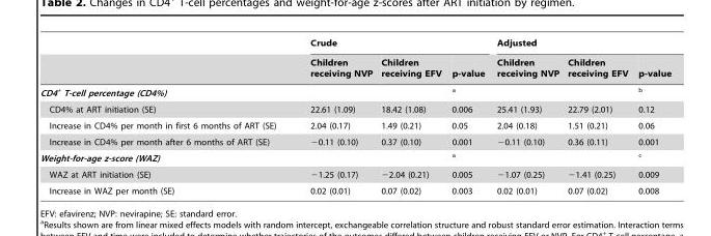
<table><thead><tr><td rowspan="2"></td><td colspan="3">Crude</td><td colspan="3">Adjusted</td></tr><tr><td>Children receiving NVP</td><td>Children receiving EFV</td><td>p-value</td><td>Children receiving NVP</td><td>Children receiving EFV</td><td>p-value</td></tr></thead><tbody><tr><td>CD4<sup>+</sup> T-cell percentage (CD4%)</td><td></td><td></td><td>a</td><td></td><td></td><td>b</td></tr><tr><td>CD4% at ART initiation (SE)</td><td>22.61 (1.09)</td><td>18.42 (1.08)</td><td>0.006</td><td>25.41 (1.93)</td><td>22.79 (2.01)</td><td>0.12</td></tr><tr><td>Increase in CD4% per month in first 6 months of ART (SE)</td><td>2.04 (0.17)</td><td>1.49 (0.21)</td><td>0.05</td><td>2.04 (0.18)</td><td>1.51 (0.21)</td><td>0.06</td></tr><tr><td>Increase in CD4% per month after 6 months of ART (SE)</td><td>−0.11 (0.10)</td><td>0.37 (0.10)</td><td>0.001</td><td>−0.11 (0.10)</td><td>0.36 (0.11)</td><td>0.001</td></tr><tr><td>Weight-for-age z-score (WAZ)</td><td></td><td></td><td>a</td><td></td><td></td><td>c</td></tr><tr><td>WAZ at ART initiation (SE)</td><td>−1.25 (0.17)</td><td>−2.04 (0.21)</td><td>0.005</td><td>−1.07 (0.25)</td><td>−1.41 (0.25)</td><td>0.009</td></tr><tr><td>Increase in WAZ per month (SE)</td><td>0.02 (0.01)</td><td>0.07 (0.02)</td><td>0.003</td><td>0.02 (0.01)</td><td>0.07 (0.02)</td><td>0.008</td></tr></tbody></table>